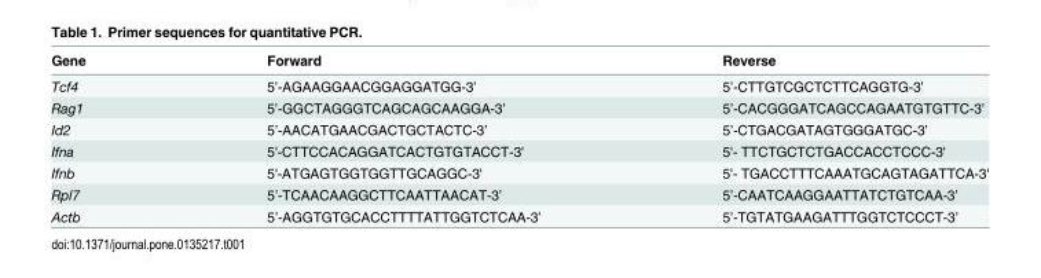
<table><thead><tr><td>Gene</td><td>Forward</td><td>Reverse</td></tr></thead><tbody><tr><td>Tcf4</td><td>5’-AGAAGGAACGGAGGATGG-3’</td><td>5’-CTTGTCGCTCTTCAGGTG-3’</td></tr><tr><td>Rag1</td><td>5’-GGCTAGGGTCAGCAGCAAGGA-3’</td><td>5’-CACGGGATCAGCCAGAATGTGTTC-3’</td></tr><tr><td>Id2</td><td>5’-AACATGAACGACTGCTACTC-3’</td><td>5’-CTGACGATAGTGGGATGC-3’</td></tr><tr><td>Ifna</td><td>5&#x27;-CTTCCACAGGATCACTGTGTACCT-3&#x27;</td><td>5&#x27;- TTCTGCTCTGACCACCTCCC-3&#x27;</td></tr><tr><td>Ifnb</td><td>5&#x27;-ATGAGTGGTGGTTGCAGGC-3&#x27;</td><td>5&#x27;- TGACCTTTCAAATGCAGTAGATTCA-3&#x27;</td></tr><tr><td>Rpl7</td><td>5’-TCAACAAGGCTTCAATTAACAT-3’</td><td>5’-CAATCAAGGAATTATCTGTCAA-3’</td></tr><tr><td>Actb</td><td>5’-AGGTGTGCACCTTTTATTGGTCTCAA-3’</td><td>5’-TGTATGAAGATTTGGTCTCCCT-3’</td></tr></tbody></table>